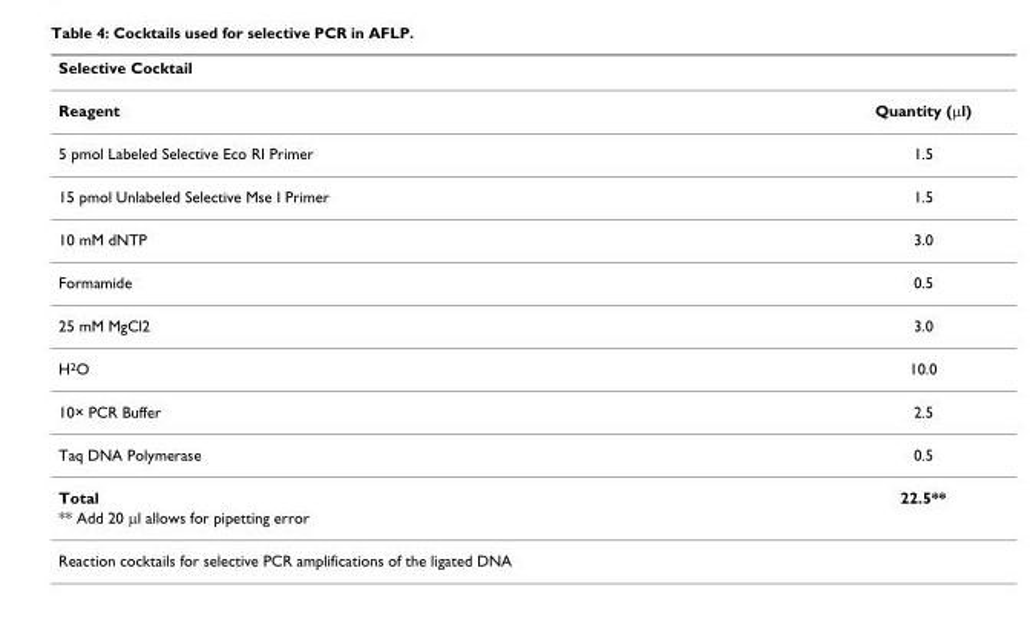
<table><thead><tr><td>Selective Cocktail</td><td></td></tr></thead><tbody><tr><td>Reagent</td><td>Quantity (μl)</td></tr><tr><td>5 pmol Labeled Selective Eco RI Primer</td><td>1.5</td></tr><tr><td>15 pmol Unlabeled Selective Mse I Primer</td><td>1.5</td></tr><tr><td>10 mM dNTP</td><td>3.0</td></tr><tr><td>Formamide</td><td>0.5</td></tr><tr><td>25 mM MgCl2</td><td>3.0</td></tr><tr><td>H<sup>2</sup>O</td><td>10.0</td></tr><tr><td>10× PCR Buffer</td><td>2.5</td></tr><tr><td>Taq DNA Polymerase</td><td>0.5</td></tr><tr><td>Total</td><td>22.5**</td></tr><tr><td colspan="2">** Add 20 μl allows for pipetting error</td></tr><tr><td>Reaction cocktails for selective PCR amplifications of the ligated DNA</td><td></td></tr></tbody></table>